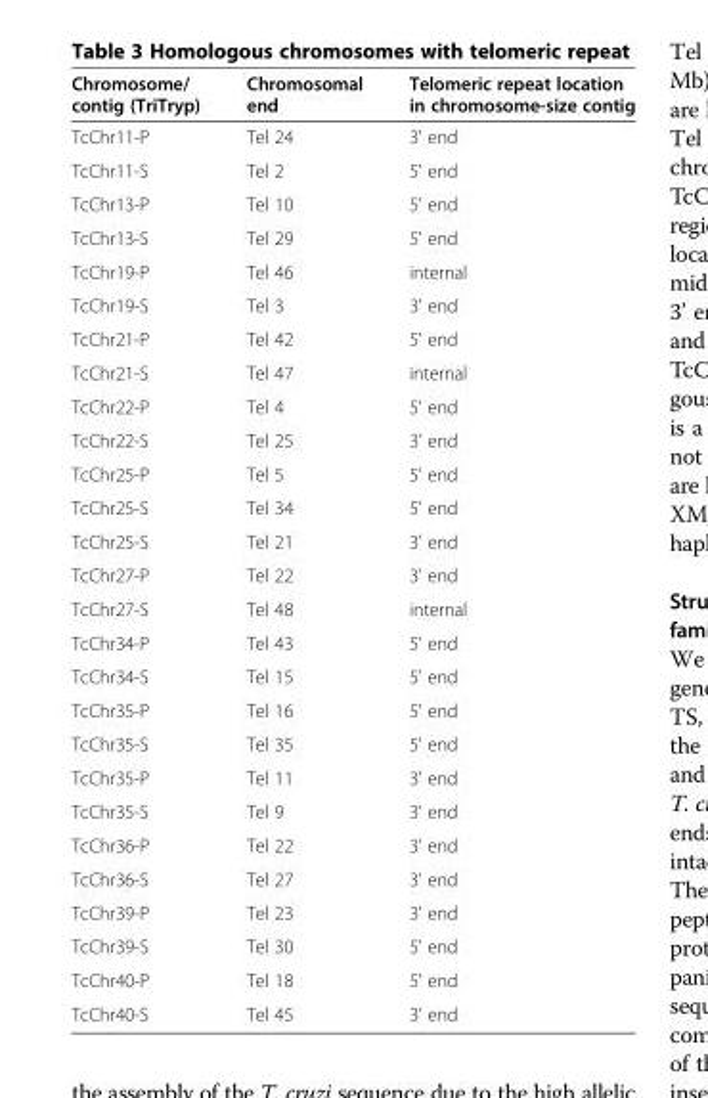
<table><thead><tr><td>Chromosome/ contig (TriTryp)</td><td>Chromosomal end</td><td>Telomeric repeat location in chromosome-size contig</td></tr></thead><tbody><tr><td>TcChr11-P</td><td>Tel 24</td><td>3&#x27; end</td></tr><tr><td>TcChr11-S</td><td>Tel 2</td><td>5&#x27; end</td></tr><tr><td>TcChr13-P</td><td>Tel 10</td><td>5&#x27; end</td></tr><tr><td>TcChr13-S</td><td>Tel 29</td><td>5&#x27; end</td></tr><tr><td>TcChr19-P</td><td>Tel 46</td><td>internal</td></tr><tr><td>TcChr19-S</td><td>Tel 3</td><td>3&#x27; end</td></tr><tr><td>TcChr21-P</td><td>Tel 42</td><td>5&#x27; end</td></tr><tr><td>TcChr21-S</td><td>Tel 47</td><td>internal</td></tr><tr><td>TcChr22-P</td><td>Tel 4</td><td>5&#x27; end</td></tr><tr><td>TcChr22-S</td><td>Tel 25</td><td>3&#x27; end</td></tr><tr><td>TcChr25-P</td><td>Tel 5</td><td>5&#x27; end</td></tr><tr><td>TcChr25-S</td><td>Tel 34</td><td>5&#x27; end</td></tr><tr><td>TcChr25-S</td><td>Tel 21</td><td>3&#x27; end</td></tr><tr><td>TcChr27-P</td><td>Tel 22</td><td>3&#x27; end</td></tr><tr><td>TcChr27-S</td><td>Tel 48</td><td>internal</td></tr><tr><td>TcChr34-P</td><td>Tel 43</td><td>5&#x27; end</td></tr><tr><td>TcChr34-S</td><td>Tel 15</td><td>5&#x27; end</td></tr><tr><td>TcChr35-P</td><td>Tel 16</td><td>5&#x27; end</td></tr><tr><td>TcChr35-S</td><td>Tel 35</td><td>5&#x27; end</td></tr><tr><td>TcChr35-P</td><td>Tel 11</td><td>3&#x27; end</td></tr><tr><td>TcChr35-S</td><td>Tel 9</td><td>3&#x27; end</td></tr><tr><td>TcChr36-P</td><td>Tel 22</td><td>3&#x27; end</td></tr><tr><td>TcChr36-S</td><td>Tel 27</td><td>3&#x27; end</td></tr><tr><td>TcChr39-P</td><td>Tel 23</td><td>3&#x27; end</td></tr><tr><td>TcChr39-S</td><td>Tel 30</td><td>5&#x27; end</td></tr><tr><td>TcChr40-P</td><td>Tel 18</td><td>5&#x27; end</td></tr><tr><td>TcChr40-S</td><td>Tel 45</td><td>3&#x27; end</td></tr></tbody></table>